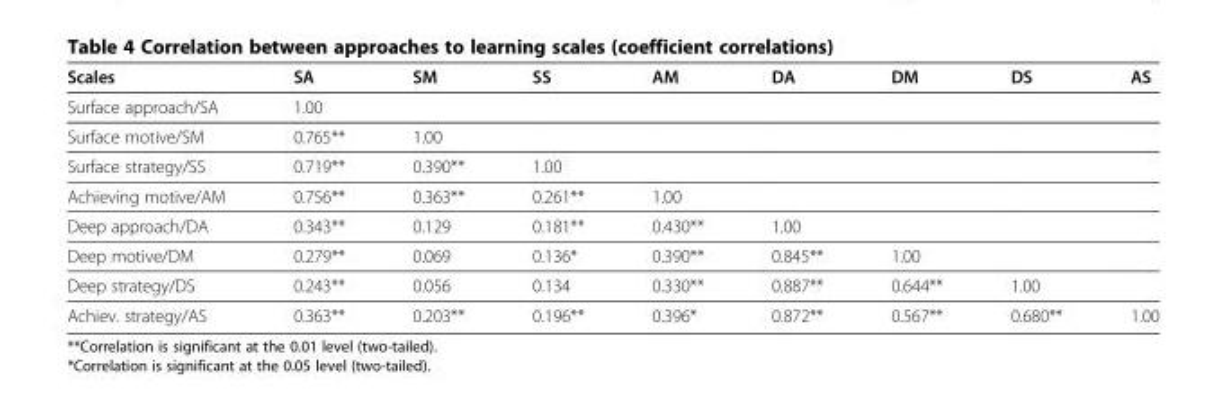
<table><thead><tr><td>Scales</td><td>SA</td><td>SM</td><td>SS</td><td>AM</td><td>DA</td><td>DM</td><td>DS</td><td>AS</td></tr></thead><tbody><tr><td>Surface approach/SA</td><td>1.00</td><td></td><td></td><td></td><td></td><td></td><td></td><td></td></tr><tr><td>Surface motive/SM</td><td>0.765**</td><td>1.00</td><td></td><td></td><td></td><td></td><td></td><td></td></tr><tr><td>Surface strategy/SS</td><td>0.719**</td><td>0.390**</td><td>1.00</td><td></td><td></td><td></td><td></td><td></td></tr><tr><td>Achieving motive/AM</td><td>0.756**</td><td>0.363**</td><td>0.261**</td><td>1.00</td><td></td><td></td><td></td><td></td></tr><tr><td>Deep approach/DA</td><td>0.343**</td><td>0.129</td><td>0.181**</td><td>0.430**</td><td>1.00</td><td></td><td></td><td></td></tr><tr><td>Deep motive/DM</td><td>0.279**</td><td>0.069</td><td>0.136*</td><td>0.390**</td><td>0.845**</td><td>1.00</td><td></td><td></td></tr><tr><td>Deep strategy/DS</td><td>0.243**</td><td>0.056</td><td>0.134</td><td>0.330**</td><td>0.887**</td><td>0.644**</td><td>1.00</td><td></td></tr><tr><td>Achiev. strategy/AS</td><td>0.363**</td><td>0.203**</td><td>0.196**</td><td>0.396*</td><td>0.872**</td><td>0.567**</td><td>0.680**</td><td>1.00</td></tr></tbody></table>